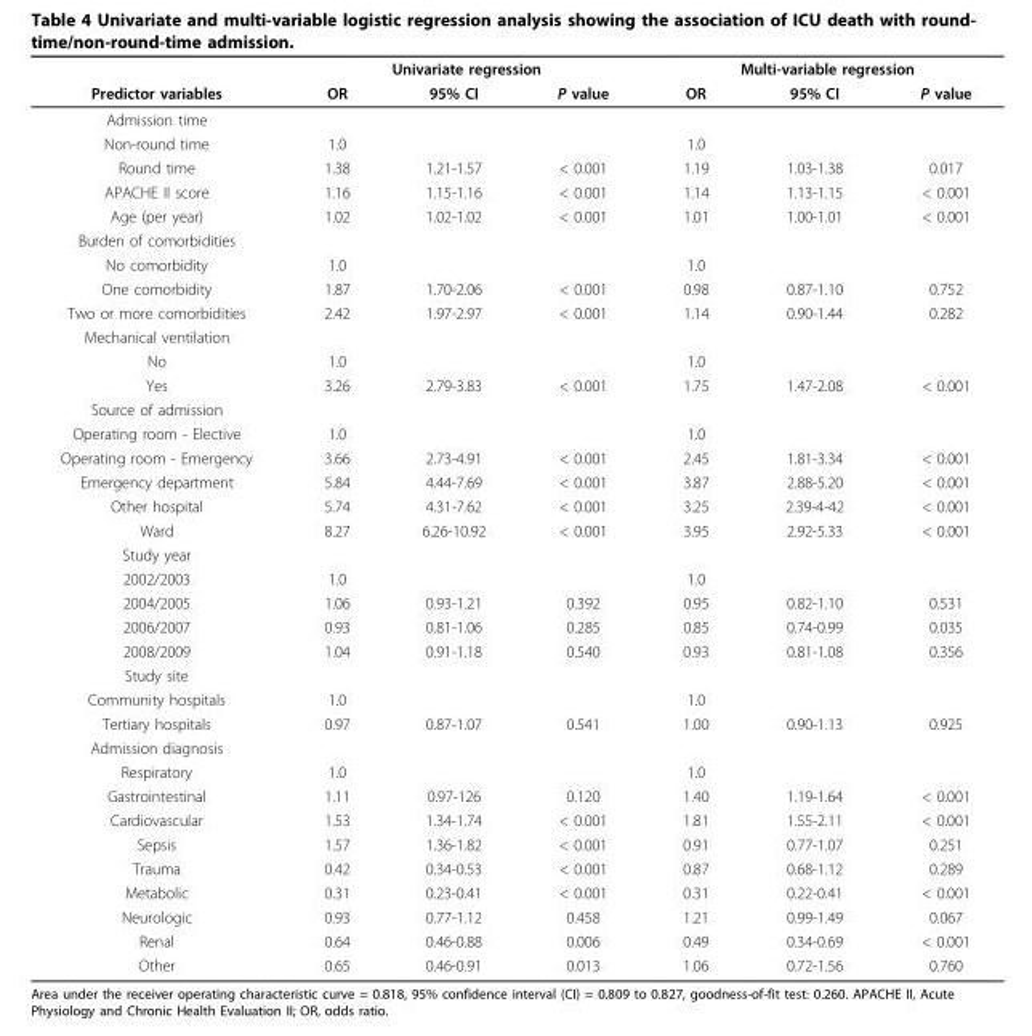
<table><thead><tr><td rowspan="2">Predictor variables</td><td colspan="3">Univariate regression</td><td colspan="3">Multi-variable regression</td></tr><tr><td>OR</td><td>95% CI</td><td>P value</td><td>OR</td><td>95% CI</td><td>P value</td></tr></thead><tbody><tr><td colspan="7">Admission time</td></tr><tr><td>Non-round time</td><td>1.0</td><td></td><td></td><td>1.0</td><td></td><td></td></tr><tr><td>Round time</td><td>1.38</td><td>1.21-1.57</td><td>&lt; 0.001</td><td>1.19</td><td>1.03-1.38</td><td>0.017</td></tr><tr><td>APACHE II score</td><td>1.16</td><td>1.15-1.16</td><td>&lt; 0.001</td><td>1.14</td><td>1.13-1.15</td><td>&lt; 0.001</td></tr><tr><td>Age (per year)</td><td>1.02</td><td>1.02-1.02</td><td>&lt; 0.001</td><td>1.01</td><td>1.00-1.01</td><td>&lt; 0.001</td></tr><tr><td colspan="7">Burden of comorbidities</td></tr><tr><td>No comorbidity</td><td>1.0</td><td></td><td></td><td>1.0</td><td></td><td></td></tr><tr><td>One comorbidity</td><td>1.87</td><td>1.70-2.06</td><td>&lt; 0.001</td><td>0.98</td><td>0.87-1.10</td><td>0.752</td></tr><tr><td>Two or more comorbidities</td><td>2.42</td><td>1.97-2.97</td><td>&lt; 0.001</td><td>1.14</td><td>0.90-1.44</td><td>0.282</td></tr><tr><td colspan="7">Mechanical ventilation</td></tr><tr><td>No</td><td>1.0</td><td></td><td></td><td>1.0</td><td></td><td></td></tr><tr><td>Yes</td><td>3.26</td><td>2.79-3.83</td><td>&lt; 0.001</td><td>1.75</td><td>1.47-2.08</td><td>&lt; 0.001</td></tr><tr><td colspan="7">Source of admission</td></tr><tr><td>Operating room - Elective</td><td>1.0</td><td></td><td></td><td>1.0</td><td></td><td></td></tr><tr><td>Operating room - Emergency</td><td>3.66</td><td>2.73-4.91</td><td>&lt; 0.001</td><td>2.45</td><td>1.81-3.34</td><td>&lt; 0.001</td></tr><tr><td>Emergency department</td><td>5.84</td><td>4.44-7.69</td><td>&lt; 0.001</td><td>3.87</td><td>2.88-5.20</td><td>&lt; 0.001</td></tr><tr><td>Other hospital</td><td>5.74</td><td>4.31-7.62</td><td>&lt; 0.001</td><td>3.25</td><td>2.39-4-42</td><td>&lt; 0.001</td></tr><tr><td>Ward</td><td>8.27</td><td>6.26-10.92</td><td>&lt; 0.001</td><td>3.95</td><td>2.92-5.33</td><td>&lt; 0.001</td></tr><tr><td colspan="7">Study year</td></tr><tr><td>2002/2003</td><td>1.0</td><td></td><td></td><td>1.0</td><td></td><td></td></tr><tr><td>2004/2005</td><td>1.06</td><td>0.93-1.21</td><td>0.392</td><td>0.95</td><td>0.82-1.10</td><td>0.531</td></tr><tr><td>2006/2007</td><td>0.93</td><td>0.81-1.06</td><td>0.285</td><td>0.85</td><td>0.74-0.99</td><td>0.035</td></tr><tr><td>2008/2009</td><td>1.04</td><td>0.91-1.18</td><td>0.540</td><td>0.93</td><td>0.81-1.08</td><td>0.356</td></tr><tr><td colspan="7">Study site</td></tr><tr><td>Community hospitals</td><td>1.0</td><td></td><td></td><td>1.0</td><td></td><td></td></tr><tr><td>Tertiary hospitals</td><td>0.97</td><td>0.87-1.07</td><td>0.541</td><td>1.00</td><td>0.90-1.13</td><td>0.925</td></tr><tr><td colspan="7">Admission diagnosis</td></tr><tr><td>Respiratory</td><td>1.0</td><td></td><td></td><td>1.0</td><td></td><td></td></tr><tr><td>Gastrointestinal</td><td>1.11</td><td>0.97-126</td><td>0.120</td><td>1.40</td><td>1.19-1.64</td><td>&lt; 0.001</td></tr><tr><td>Cardiovascular</td><td>1.53</td><td>1.34-1.74</td><td>&lt; 0.001</td><td>1.81</td><td>1.55-2.11</td><td>&lt; 0.001</td></tr><tr><td>Sepsis</td><td>1.57</td><td>1.36-1.82</td><td>&lt; 0.001</td><td>0.91</td><td>0.77-1.07</td><td>0.251</td></tr><tr><td>Trauma</td><td>0.42</td><td>0.34-0.53</td><td>&lt; 0.001</td><td>0.87</td><td>0.68-1.12</td><td>0.289</td></tr><tr><td>Metabolic</td><td>0.31</td><td>0.23-0.41</td><td>&lt; 0.001</td><td>0.31</td><td>0.22-0.41</td><td>&lt; 0.001</td></tr><tr><td>Neurologic</td><td>0.93</td><td>0.77-1.12</td><td>0.458</td><td>1.21</td><td>0.99-1.49</td><td>0.067</td></tr><tr><td>Renal</td><td>0.64</td><td>0.46-0.88</td><td>0.006</td><td>0.49</td><td>0.34-0.69</td><td>&lt; 0.001</td></tr><tr><td>Other</td><td>0.65</td><td>0.46-0.91</td><td>0.013</td><td>1.06</td><td>0.72-1.56</td><td>0.760</td></tr></tbody></table>